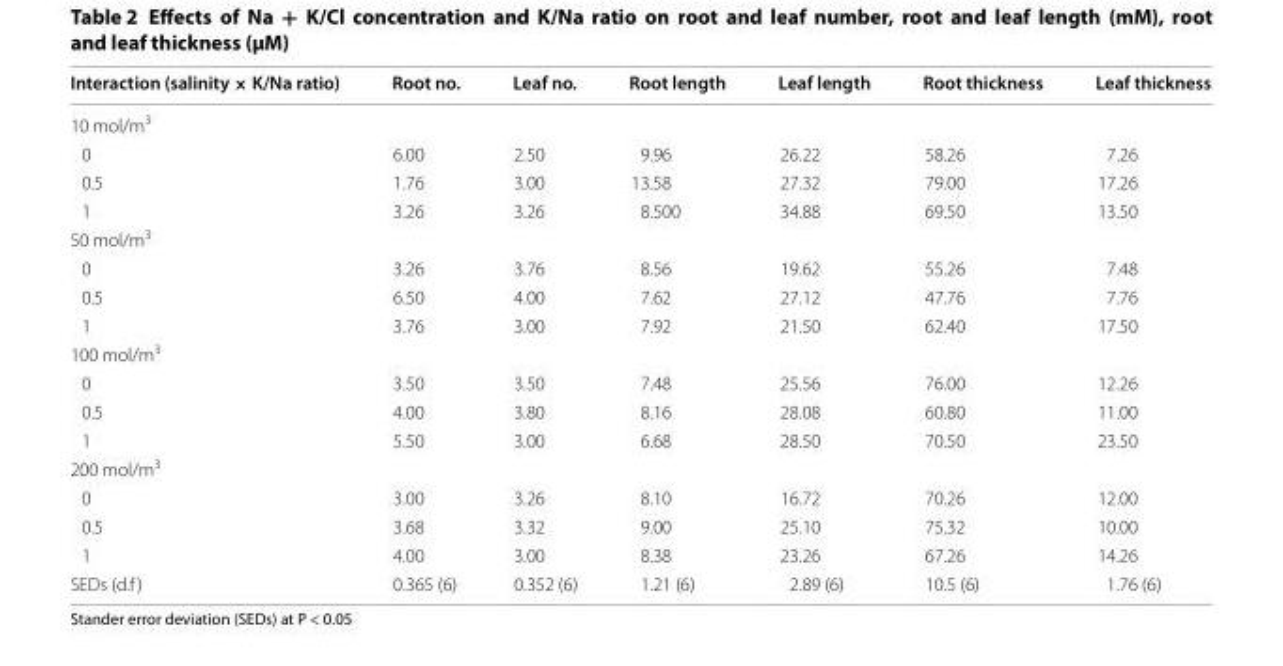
<table><thead><tr><td>Interaction (salinity × K/Na ratio)</td><td>Root no.</td><td>Leaf no.</td><td>Root length</td><td>Leaf length</td><td>Root thickness</td><td>Leaf thickness</td></tr></thead><tbody><tr><td colspan="7">10 mol/m<sup>3</sup></td></tr><tr><td>0</td><td>6.00</td><td>2.50</td><td>9.96</td><td>26.22</td><td>58.26</td><td>7.26</td></tr><tr><td>0.5</td><td>1.76</td><td>3.00</td><td>13.58</td><td>27.32</td><td>79.00</td><td>17.26</td></tr><tr><td>1</td><td>3.26</td><td>3.26</td><td>8.500</td><td>34.88</td><td>69.50</td><td>13.50</td></tr><tr><td colspan="7">50 mol/m<sup>3</sup></td></tr><tr><td>0</td><td>3.26</td><td>3.76</td><td>8.56</td><td>19.62</td><td>55.26</td><td>7.48</td></tr><tr><td>0.5</td><td>6.50</td><td>4.00</td><td>7.62</td><td>27.12</td><td>47.76</td><td>7.76</td></tr><tr><td>1</td><td>3.76</td><td>3.00</td><td>7.92</td><td>21.50</td><td>62.40</td><td>17.50</td></tr><tr><td colspan="7">100 mol/m<sup>3</sup></td></tr><tr><td>0</td><td>3.50</td><td>3.50</td><td>7.48</td><td>25.56</td><td>76.00</td><td>12.26</td></tr><tr><td>0.5</td><td>4.00</td><td>3.80</td><td>8.16</td><td>28.08</td><td>60.80</td><td>11.00</td></tr><tr><td>1</td><td>5.50</td><td>3.00</td><td>6.68</td><td>28.50</td><td>70.50</td><td>23.50</td></tr><tr><td colspan="7">200 mol/m<sup>3</sup></td></tr><tr><td>0</td><td>3.00</td><td>3.26</td><td>8.10</td><td>16.72</td><td>70.26</td><td>12.00</td></tr><tr><td>0.5</td><td>3.68</td><td>3.32</td><td>9.00</td><td>25.10</td><td>75.32</td><td>10.00</td></tr><tr><td>1</td><td>4.00</td><td>3.00</td><td>8.38</td><td>23.26</td><td>67.26</td><td>14.26</td></tr><tr><td>SEDs (d.f)</td><td>0.365 (6)</td><td>0.352 (6)</td><td>1.21 (6)</td><td>2.89 (6)</td><td>10.5 (6)</td><td>1.76 (6)</td></tr></tbody></table>